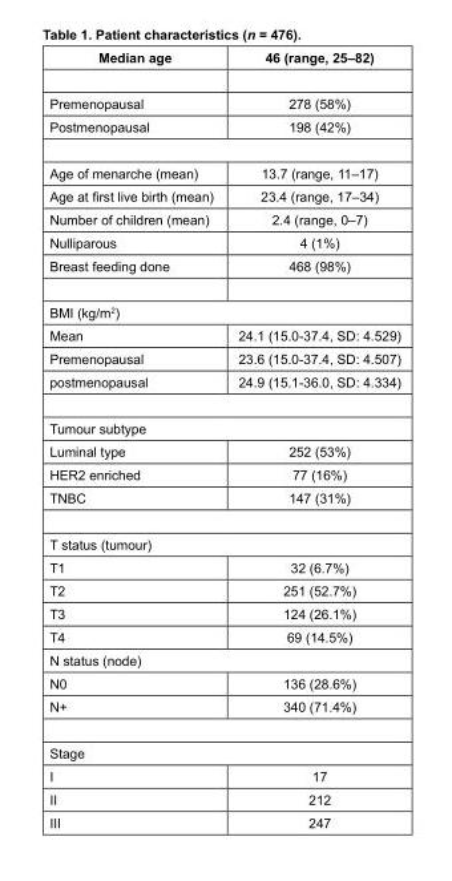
<table><thead><tr><td>Median age</td><td>46 (range, 25–82)</td></tr></thead><tbody><tr><td>Premenopausal</td><td>278 (58%)</td></tr><tr><td>Postmenopausal</td><td>198 (42%)</td></tr><tr><td>Age of menarche (mean)</td><td>13.7 (range, 11–17)</td></tr><tr><td>Age at first live birth (mean)</td><td>23.4 (range, 17–34)</td></tr><tr><td>Number of children (mean)</td><td>2.4 (range, 0–7)</td></tr><tr><td>Nulliparous</td><td>4 (1%)</td></tr><tr><td>Breast feeding done</td><td>468 (98%)</td></tr><tr><td colspan="2">BMI (kg/m<sup>2</sup>)</td></tr><tr><td>Mean</td><td>24.1 (15.0-37.4, SD: 4.529)</td></tr><tr><td>Premenopausal</td><td>23.6 (15.0-37.4, SD: 4.507)</td></tr><tr><td>postmenopausal</td><td>24.9 (15.1-36.0, SD: 4.334)</td></tr><tr><td colspan="2">Tumour subtype</td></tr><tr><td>Luminal type</td><td>252 (53%)</td></tr><tr><td>HER2 enriched</td><td>77 (16%)</td></tr><tr><td>TNBC</td><td>147 (31%)</td></tr><tr><td colspan="2">T status (tumour)</td></tr><tr><td>T1</td><td>32 (6.7%)</td></tr><tr><td>T2</td><td>251 (52.7%)</td></tr><tr><td>T3</td><td>124 (26.1%)</td></tr><tr><td>T4</td><td>69 (14.5%)</td></tr><tr><td colspan="2">N status (node)</td></tr><tr><td>N0</td><td>136 (28.6%)</td></tr><tr><td>N+</td><td>340 (71.4%)</td></tr><tr><td colspan="2">Stage</td></tr><tr><td>I</td><td>17</td></tr><tr><td>II</td><td>212</td></tr><tr><td>III</td><td>247</td></tr></tbody></table>